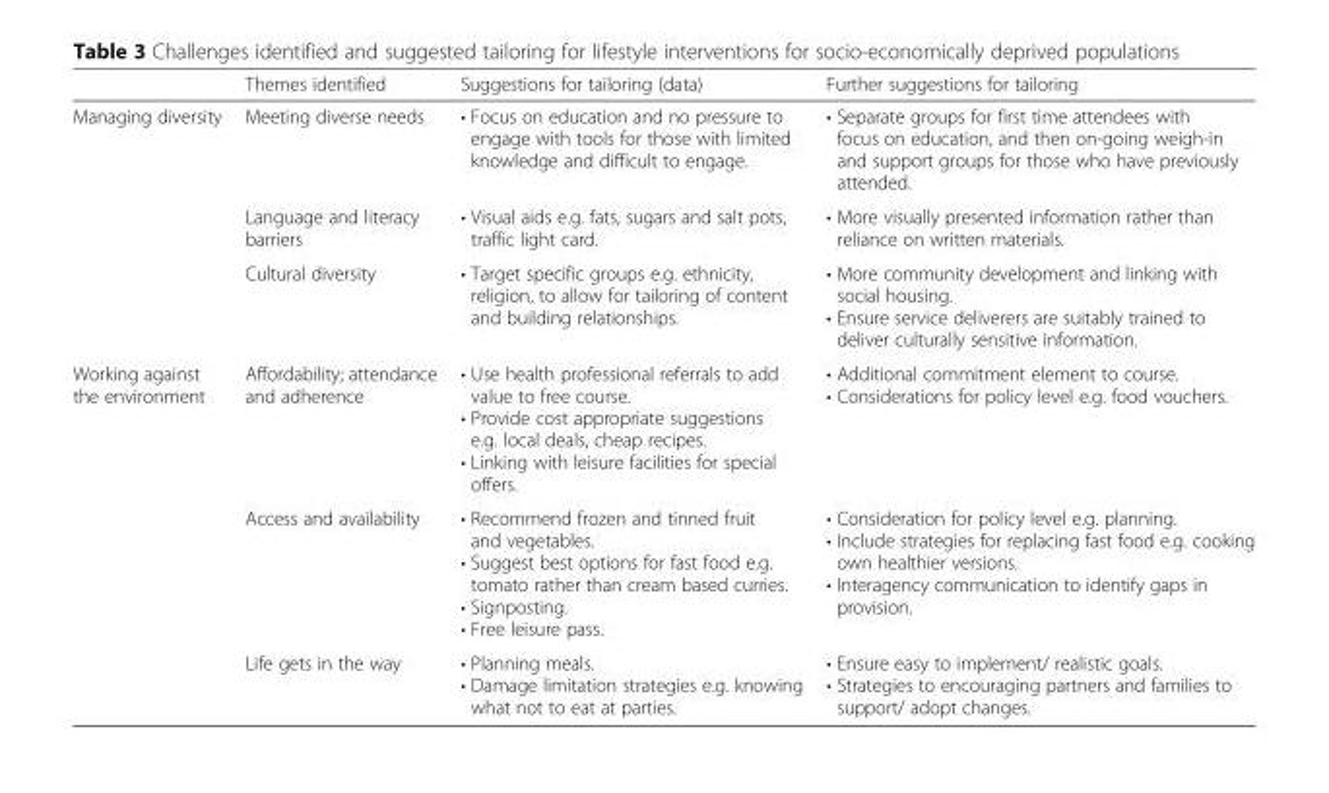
<table><thead><tr><td></td><td>Themes identified</td><td>Suggestions for tailoring (data)</td><td>Further suggestions for tailoring</td></tr></thead><tbody><tr><td rowspan="3">Managing diversity</td><td>Meeting diverse needs</td><td>• Focus on education and no pressure to engage with tools for those with limited knowledge and difficult to engage.</td><td>• Separate groups for first time attendees with focus on education, and then on-going weigh-in and support groups for those who have previously attended.</td></tr><tr><td>Language and literacy barriers</td><td>• Visual aids e.g. fats, sugars and salt pots, traffic light card.</td><td>• More visually presented information rather than reliance on written materials.</td></tr><tr><td>Cultural diversity</td><td>• Target specific groups e.g. ethnicity, religion, to allow for tailoring of content and building relationships.</td><td>• More community development and linking with social housing. • Ensure service deliverers are suitably trained to deliver culturally sensitive information.</td></tr><tr><td rowspan="3">Working against the environment</td><td>Affordability; attendance and adherence</td><td>• Use health professional referrals to add value to free course. • Provide cost appropriate suggestions e.g. local deals, cheap recipes. • Linking with leisure facilities for special offers.</td><td>• Additional commitment element to course. • Considerations for policy level e.g. food vouchers.</td></tr><tr><td>Access and availability</td><td>• Recommend frozen and tinned fruit and vegetables. • Suggest best options for fast food e.g. tomato rather than cream based curries. • Signposting. • Free leisure pass.</td><td>• Consideration for policy level e.g. planning. • Include strategies for replacing fast food e.g. cooking own healthier versions. • Interagency communication to identify gaps in provision.</td></tr><tr><td>Life gets in the way</td><td>• Planning meals. • Damage limitation strategies e.g. knowing what not to eat at parties.</td><td>• Ensure easy to implement/ realistic goals. • Strategies to encouraging partners and families to support/ adopt changes.</td></tr></tbody></table>